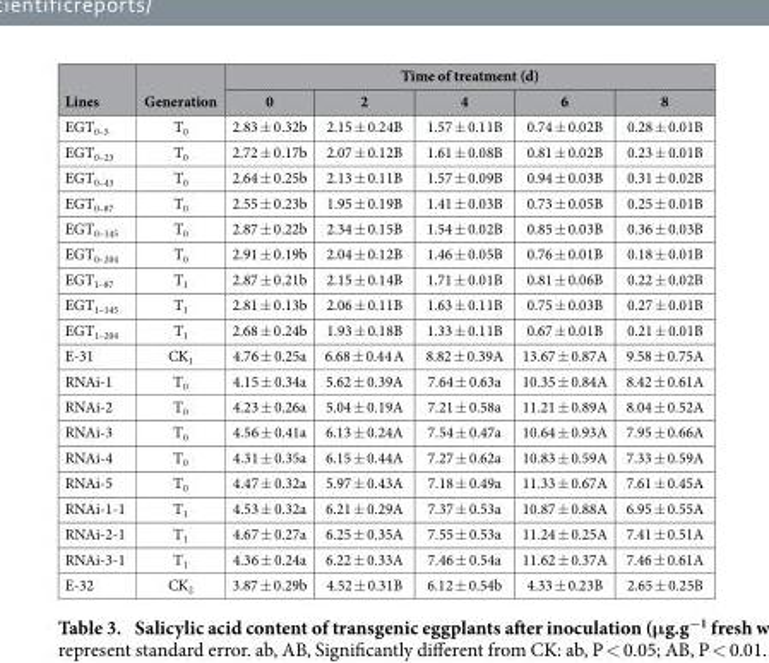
<table><thead><tr><td rowspan="2">Lines</td><td rowspan="2">Generation</td><td colspan="5">Time of treatment (d)</td></tr><tr><td>0</td><td>2</td><td>4</td><td>6</td><td>8</td></tr></thead><tbody><tr><td>EGT<sub>0–5</sub></td><td>T<sub>0</sub></td><td>2.83 ± 0.32b</td><td>2.15 ± 0.24B</td><td>1.57 ± 0.11B</td><td>0.74 ± 0.02B</td><td>0.28 ± 0.01B</td></tr><tr><td>EGT<sub>0–23</sub></td><td>T<sub>0</sub></td><td>2.72 ± 0.17b</td><td>2.07 ± 0.12B</td><td>1.61 ± 0.08B</td><td>0.81 ± 0.02B</td><td>0.23 ± 0.01B</td></tr><tr><td>EGT<sub>0–43</sub></td><td>T<sub>0</sub></td><td>2.64 ± 0.25b</td><td>2.13 ± 0.11B</td><td>1.57 ± 0.09B</td><td>0.94 ± 0.03B</td><td>0.31 ± 0.02B</td></tr><tr><td>EGT<sub>0–87</sub></td><td>T<sub>0</sub></td><td>2.55 ± 0.23b</td><td>1.95 ± 0.19B</td><td>1.41 ± 0.03B</td><td>0.73 ± 0.05B</td><td>0.25 ± 0.01B</td></tr><tr><td>EGT<sub>0–145</sub></td><td>T<sub>0</sub></td><td>2.87 ± 0.22b</td><td>2.34 ± 0.15B</td><td>1.54 ± 0.02B</td><td>0.85 ± 0.03B</td><td>0.36 ± 0.03B</td></tr><tr><td>EGT<sub>0–204</sub></td><td>T<sub>0</sub></td><td>2.91 ± 0.19b</td><td>2.04 ± 0.12B</td><td>1.46 ± 0.05B</td><td>0.76 ± 0.01B</td><td>0.18 ± 0.01B</td></tr><tr><td>EGT<sub>1–87</sub></td><td>T<sub>1</sub></td><td>2.87 ± 0.21b</td><td>2.15 ± 0.14B</td><td>1.71 ± 0.01B</td><td>0.81 ± 0.06B</td><td>0.22 ± 0.02B</td></tr><tr><td>EGT<sub>1–145</sub></td><td>T<sub>1</sub></td><td>2.81 ± 0.13b</td><td>2.06 ± 0.11B</td><td>1.63 ± 0.11B</td><td>0.75 ± 0.03B</td><td>0.27 ± 0.01B</td></tr><tr><td>EGT<sub>1–204</sub></td><td>T<sub>1</sub></td><td>2.68 ± 0.24b</td><td>1.93 ± 0.18B</td><td>1.33 ± 0.11B</td><td>0.67 ± 0.01B</td><td>0.21 ± 0.01B</td></tr><tr><td>E-31</td><td>CK<sub>1</sub></td><td>4.76 ± 0.25a</td><td>6.68 ± 0.44 A</td><td>8.82 ± 0.39A</td><td>13.67 ± 0.87A</td><td>9.58 ± 0.75A</td></tr><tr><td>RNAi-1</td><td>T<sub>0</sub></td><td>4.15 ± 0.34a</td><td>5.62 ± 0.39A</td><td>7.64 ± 0.63a</td><td>10.35 ± 0.84A</td><td>8.42 ± 0.61A</td></tr><tr><td>RNAi-2</td><td>T<sub>0</sub></td><td>4.23 ± 0.26a</td><td>5.04 ± 0.19A</td><td>7.21 ± 0.58a</td><td>11.21 ± 0.89A</td><td>8.04 ± 0.52A</td></tr><tr><td>RNAi-3</td><td>T<sub>0</sub></td><td>4.56 ± 0.41a</td><td>6.13 ± 0.24A</td><td>7.54 ± 0.47a</td><td>10.64 ± 0.93A</td><td>7.95 ± 0.66A</td></tr><tr><td>RNAi-4</td><td>T<sub>0</sub></td><td>4.31 ± 0.35a</td><td>6.15 ± 0.44A</td><td>7.27 ± 0.62a</td><td>10.83 ± 0.59A</td><td>7.33 ± 0.59A</td></tr><tr><td>RNAi-5</td><td>T<sub>0</sub></td><td>4.47 ± 0.32a</td><td>5.97 ± 0.43A</td><td>7.18 ± 0.49a</td><td>11.33 ± 0.67A</td><td>7.61 ± 0.45A</td></tr><tr><td>RNAi-1-1</td><td>T<sub>1</sub></td><td>4.53 ± 0.32a</td><td>6.21 ± 0.29A</td><td>7.37 ± 0.53a</td><td>10.87 ± 0.88A</td><td>6.95 ± 0.55A</td></tr><tr><td>RNAi-2-1</td><td>T<sub>1</sub></td><td>4.67 ± 0.27a</td><td>6.25 ± 0.35A</td><td>7.55 ± 0.53a</td><td>11.24 ± 0.25A</td><td>7.41 ± 0.51A</td></tr><tr><td>RNAi-3-1</td><td>T<sub>1</sub></td><td>4.36 ± 0.24a</td><td>6.22 ± 0.33A</td><td>7.46 ± 0.54a</td><td>11.62 ± 0.37A</td><td>7.46 ± 0.61A</td></tr><tr><td>E-32</td><td>CK<sub>2</sub></td><td>3.87 ± 0.29b</td><td>4.52 ± 0.31B</td><td>6.12 ± 0.54b</td><td>4.33 ± 0.23B</td><td>2.65 ± 0.25B</td></tr></tbody></table>